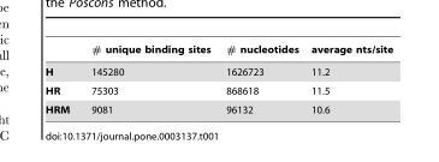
<table><thead><tr><td></td><td># unique binding sites</td><td># nucleotides</td><td>average nts/site</td></tr></thead><tbody><tr><td>H</td><td>145280</td><td>1626723</td><td>11.2</td></tr><tr><td>HR</td><td>75303</td><td>868618</td><td>11.5</td></tr><tr><td>HRM</td><td>9081</td><td>96132</td><td>10.6</td></tr></tbody></table>